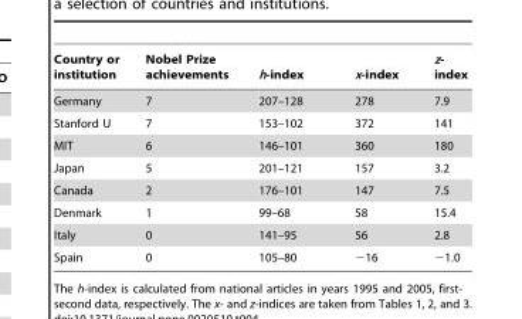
<table><thead><tr><td>Country or institution</td><td>Nobel Prize achievements</td><td>h-index</td><td>x-index</td><td>z- index</td></tr></thead><tbody><tr><td>Germany</td><td>7</td><td>207–128</td><td>278</td><td>7.9</td></tr><tr><td>Stanford U</td><td>7</td><td>153–102</td><td>372</td><td>141</td></tr><tr><td>MIT</td><td>6</td><td>146–101</td><td>360</td><td>180</td></tr><tr><td>Japan</td><td>5</td><td>201–121</td><td>157</td><td>3.2</td></tr><tr><td>Canada</td><td>2</td><td>176–101</td><td>147</td><td>7.5</td></tr><tr><td>Denmark</td><td>1</td><td>99–68</td><td>58</td><td>15.4</td></tr><tr><td>Italy</td><td>0</td><td>141–95</td><td>56</td><td>2.8</td></tr><tr><td>Spain</td><td>0</td><td>105–80</td><td>−16</td><td>−1.0</td></tr></tbody></table>